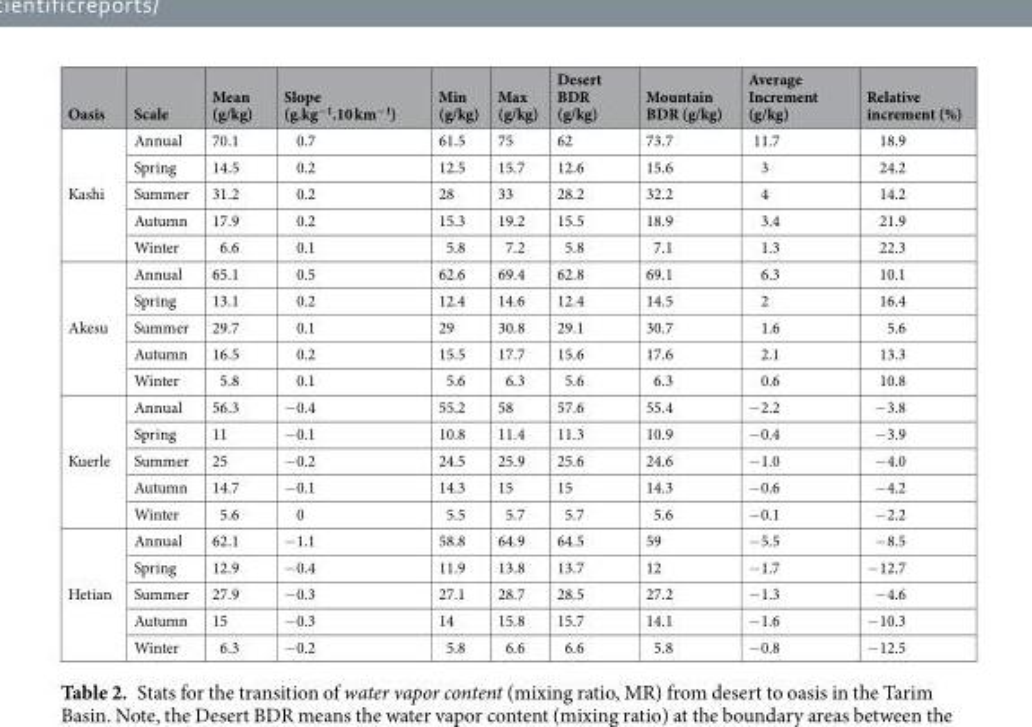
<table><thead><tr><td>Oasis</td><td>Scale</td><td>Mean (g/kg)</td><td>Slope (g.kg<sup>−1</sup>.10 km<sup>−1</sup>)</td><td>Min (g/kg)</td><td>Max (g/kg)</td><td>Desert BDR (g/kg)</td><td>Mountain BDR (g/kg)</td><td>Average Increment (g/kg)</td><td>Relative increment (%)</td></tr></thead><tbody><tr><td rowspan="5">Kashi</td><td>Annual</td><td>70.1</td><td>0.7</td><td>61.5</td><td>75</td><td>62</td><td>73.7</td><td>11.7</td><td>18.9</td></tr><tr><td>Spring</td><td>14.5</td><td>0.2</td><td>12.5</td><td>15.7</td><td>12.6</td><td>15.6</td><td>3</td><td>24.2</td></tr><tr><td>Summer</td><td>31.2</td><td>0.2</td><td>28</td><td>33</td><td>28.2</td><td>32.2</td><td>4</td><td>14.2</td></tr><tr><td>Autumn</td><td>17.9</td><td>0.2</td><td>15.3</td><td>19.2</td><td>15.5</td><td>18.9</td><td>3.4</td><td>21.9</td></tr><tr><td>Winter</td><td>6.6</td><td>0.1</td><td>5.8</td><td>7.2</td><td>5.8</td><td>7.1</td><td>1.3</td><td>22.3</td></tr><tr><td rowspan="5">Akesu</td><td>Annual</td><td>65.1</td><td>0.5</td><td>62.6</td><td>69.4</td><td>62.8</td><td>69.1</td><td>6.3</td><td>10.1</td></tr><tr><td>Spring</td><td>13.1</td><td>0.2</td><td>12.4</td><td>14.6</td><td>12.4</td><td>14.5</td><td>2</td><td>16.4</td></tr><tr><td>Summer</td><td>29.7</td><td>0.1</td><td>29</td><td>30.8</td><td>29.1</td><td>30.7</td><td>1.6</td><td>5.6</td></tr><tr><td>Autumn</td><td>16.5</td><td>0.2</td><td>15.5</td><td>17.7</td><td>15.6</td><td>17.6</td><td>2.1</td><td>13.3</td></tr><tr><td>Winter</td><td>5.8</td><td>0.1</td><td>5.6</td><td>6.3</td><td>5.6</td><td>6.3</td><td>0.6</td><td>10.8</td></tr><tr><td rowspan="5">Kuerle</td><td>Annual</td><td>56.3</td><td>−0.4</td><td>55.2</td><td>58</td><td>57.6</td><td>55.4</td><td>−2.2</td><td>−3.8</td></tr><tr><td>Spring</td><td>11</td><td>−0.1</td><td>10.8</td><td>11.4</td><td>11.3</td><td>10.9</td><td>−0.4</td><td>−3.9</td></tr><tr><td>Summer</td><td>25</td><td>−0.2</td><td>24.5</td><td>25.9</td><td>25.6</td><td>24.6</td><td>−1.0</td><td>−4.0</td></tr><tr><td>Autumn</td><td>14.7</td><td>−0.1</td><td>14.3</td><td>15</td><td>15</td><td>14.3</td><td>−0.6</td><td>−4.2</td></tr><tr><td>Winter</td><td>5.6</td><td>0</td><td>5.5</td><td>5.7</td><td>5.7</td><td>5.6</td><td>−0.1</td><td>−2.2</td></tr><tr><td rowspan="5">Hetian</td><td>Annual</td><td>62.1</td><td>−1.1</td><td>58.8</td><td>64.9</td><td>64.5</td><td>59</td><td>−5.5</td><td>−8.5</td></tr><tr><td>Spring</td><td>12.9</td><td>−0.4</td><td>11.9</td><td>13.8</td><td>13.7</td><td>12</td><td>−1.7</td><td>−12.7</td></tr><tr><td>Summer</td><td>27.9</td><td>−0.3</td><td>27.1</td><td>28.7</td><td>28.5</td><td>27.2</td><td>−1.3</td><td>−4.6</td></tr><tr><td>Autumn</td><td>15</td><td>−0.3</td><td>14</td><td>15.8</td><td>15.7</td><td>14.1</td><td>−1.6</td><td>−10.3</td></tr><tr><td>Winter</td><td>6.3</td><td>−0.2</td><td>5.8</td><td>6.6</td><td>6.6</td><td>5.8</td><td>−0.8</td><td>−12.5</td></tr></tbody></table>